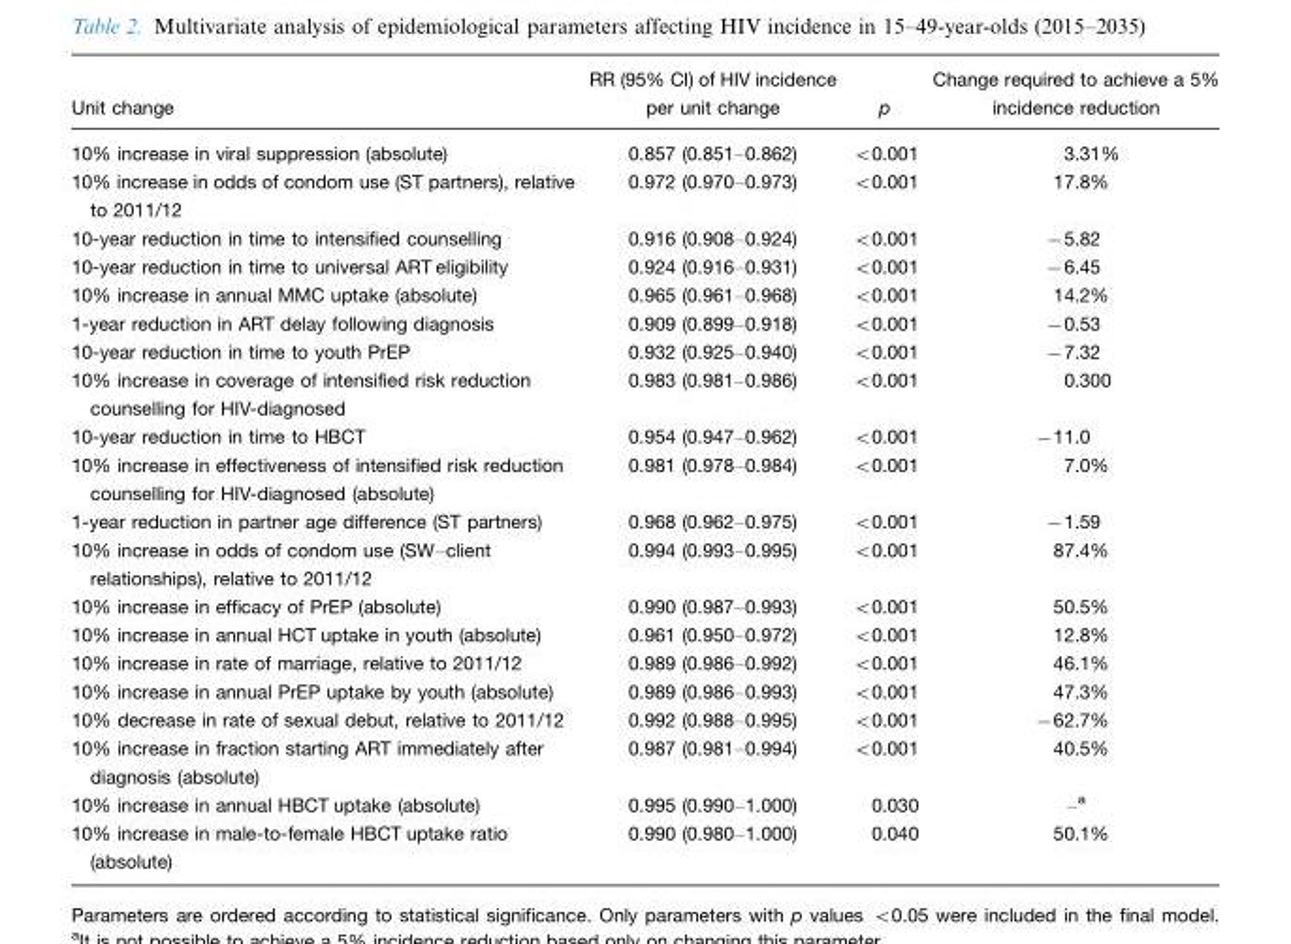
<table><thead><tr><td>Unit change</td><td>RR (95% CI) of HIV incidence per unit change</td><td>p</td><td>Change required to achieve a 5% incidence reduction</td></tr></thead><tbody><tr><td>10% increase in viral suppression (absolute)</td><td>0.857 (0.851–0.862)</td><td>&lt;0.001</td><td>3.31%</td></tr><tr><td>10% increase in odds of condom use (ST partners), relative to 2011/12</td><td>0.972 (0.970–0.973)</td><td>&lt;0.001</td><td>17.8%</td></tr><tr><td>10-year reduction in time to intensified counselling</td><td>0.916 (0.908–0.924)</td><td>&lt;0.001</td><td>−5.82</td></tr><tr><td>10-year reduction in time to universal ART eligibility</td><td>0.924 (0.916–0.931)</td><td>&lt;0.001</td><td>−6.45</td></tr><tr><td>10% increase in annual MMC uptake (absolute)</td><td>0.965 (0.961–0.968)</td><td>&lt;0.001</td><td>14.2%</td></tr><tr><td>1-year reduction in ART delay following diagnosis</td><td>0.909 (0.899–0.918)</td><td>&lt;0.001</td><td>−0.53</td></tr><tr><td>10-year reduction in time to youth PrEP</td><td>0.932 (0.925–0.940)</td><td>&lt;0.001</td><td>−7.32</td></tr><tr><td>10% increase in coverage of intensified risk reduction counselling for HIV-diagnosed</td><td>0.983 (0.981–0.986)</td><td>&lt;0.001</td><td>0.300</td></tr><tr><td>10-year reduction in time to HBCT</td><td>0.954 (0.947–0.962)</td><td>&lt;0.001</td><td>−11.0</td></tr><tr><td>10% increase in effectiveness of intensified risk reduction counselling for HIV-diagnosed (absolute)</td><td>0.981 (0.978–0.984)</td><td>&lt;0.001</td><td>7.0%</td></tr><tr><td>1-year reduction in partner age difference (ST partners)</td><td>0.968 (0.962–0.975)</td><td>&lt;0.001</td><td>−1.59</td></tr><tr><td>10% increase in odds of condom use (SW–client relationships), relative to 2011/12</td><td>0.994 (0.993–0.995)</td><td>&lt;0.001</td><td>87.4%</td></tr><tr><td>10% increase in efficacy of PrEP (absolute)</td><td>0.990 (0.987–0.993)</td><td>&lt;0.001</td><td>50.5%</td></tr><tr><td>10% increase in annual HCT uptake in youth (absolute)</td><td>0.961 (0.950–0.972)</td><td>&lt;0.001</td><td>12.8%</td></tr><tr><td>10% increase in rate of marriage, relative to 2011/12</td><td>0.989 (0.986–0.992)</td><td>&lt;0.001</td><td>46.1%</td></tr><tr><td>10% increase in annual PrEP uptake by youth (absolute)</td><td>0.989 (0.986–0.993)</td><td>&lt;0.001</td><td>47.3%</td></tr><tr><td>10% decrease in rate of sexual debut, relative to 2011/12</td><td>0.992 (0.988–0.995)</td><td>&lt;0.001</td><td>−62.7%</td></tr><tr><td>10% increase in fraction starting ART immediately after diagnosis (absolute)</td><td>0.987 (0.981–0.994)</td><td>&lt;0.001</td><td>40.5%</td></tr><tr><td>10% increase in annual HBCT uptake (absolute)</td><td>0.995 (0.990–1.000)</td><td>0.030</td><td>–a</td></tr><tr><td>10% increase in male-to-female HBCT uptake ratio (absolute)</td><td>0.990 (0.980–1.000)</td><td>0.040</td><td>50.1%</td></tr></tbody></table>